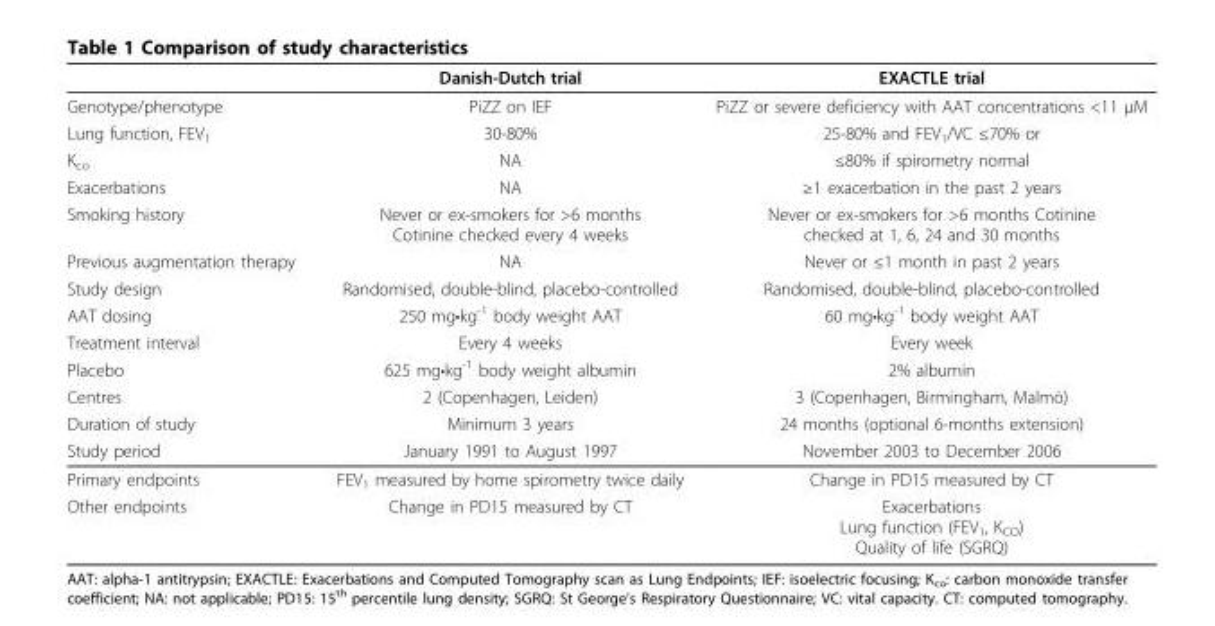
<table><thead><tr><td></td><td>Danish-Dutch trial</td><td>EXACTLE trial</td></tr></thead><tbody><tr><td>Genotype/phenotype</td><td>PiZZ on IEF</td><td>PiZZ or severe deficiency with AAT concentrations &lt;11 μM</td></tr><tr><td>Lung function, FEV<sub>1</sub></td><td>30-80%</td><td>25-80% and FEV<sub>1</sub>/VC ≤70% or</td></tr><tr><td>K<sub>co</sub></td><td>NA</td><td>≤80% if spirometry normal</td></tr><tr><td>Exacerbations</td><td>NA</td><td>≥1 exacerbation in the past 2 years</td></tr><tr><td>Smoking history</td><td>Never or ex-smokers for &gt;6 months Cotinine checked every 4 weeks</td><td>Never or ex-smokers for &gt;6 months Cotinine checked at 1, 6, 24 and 30 months</td></tr><tr><td>Previous augmentation therapy</td><td>NA</td><td>Never or ≤1 month in past 2 years</td></tr><tr><td>Study design</td><td>Randomised, double-blind, placebo-controlled</td><td>Randomised, double-blind, placebo-controlled</td></tr><tr><td>AAT dosing</td><td>250 mg•kg<sup>-1</sup> body weight AAT</td><td>60 mg•kg<sup>-1</sup> body weight AAT</td></tr><tr><td>Treatment interval</td><td>Every 4 weeks</td><td>Every week</td></tr><tr><td>Placebo</td><td>625 mg•kg<sup>-1</sup> body weight albumin</td><td>2% albumin</td></tr><tr><td>Centres</td><td>2 (Copenhagen, Leiden)</td><td>3 (Copenhagen, Birmingham, Malmö)</td></tr><tr><td>Duration of study</td><td>Minimum 3 years</td><td>24 months (optional 6-months extension)</td></tr><tr><td>Study period</td><td>January 1991 to August 1997</td><td>November 2003 to December 2006</td></tr><tr><td>Primary endpoints</td><td>FEV<sub>1</sub> measured by home spirometry twice daily</td><td>Change in PD15 measured by CT</td></tr><tr><td>Other endpoints</td><td>Change in PD15 measured by CT</td><td>Exacerbations Lung function (FEV<sub>1</sub>, K<sub>CO</sub>) Quality of life (SGRQ)</td></tr></tbody></table>